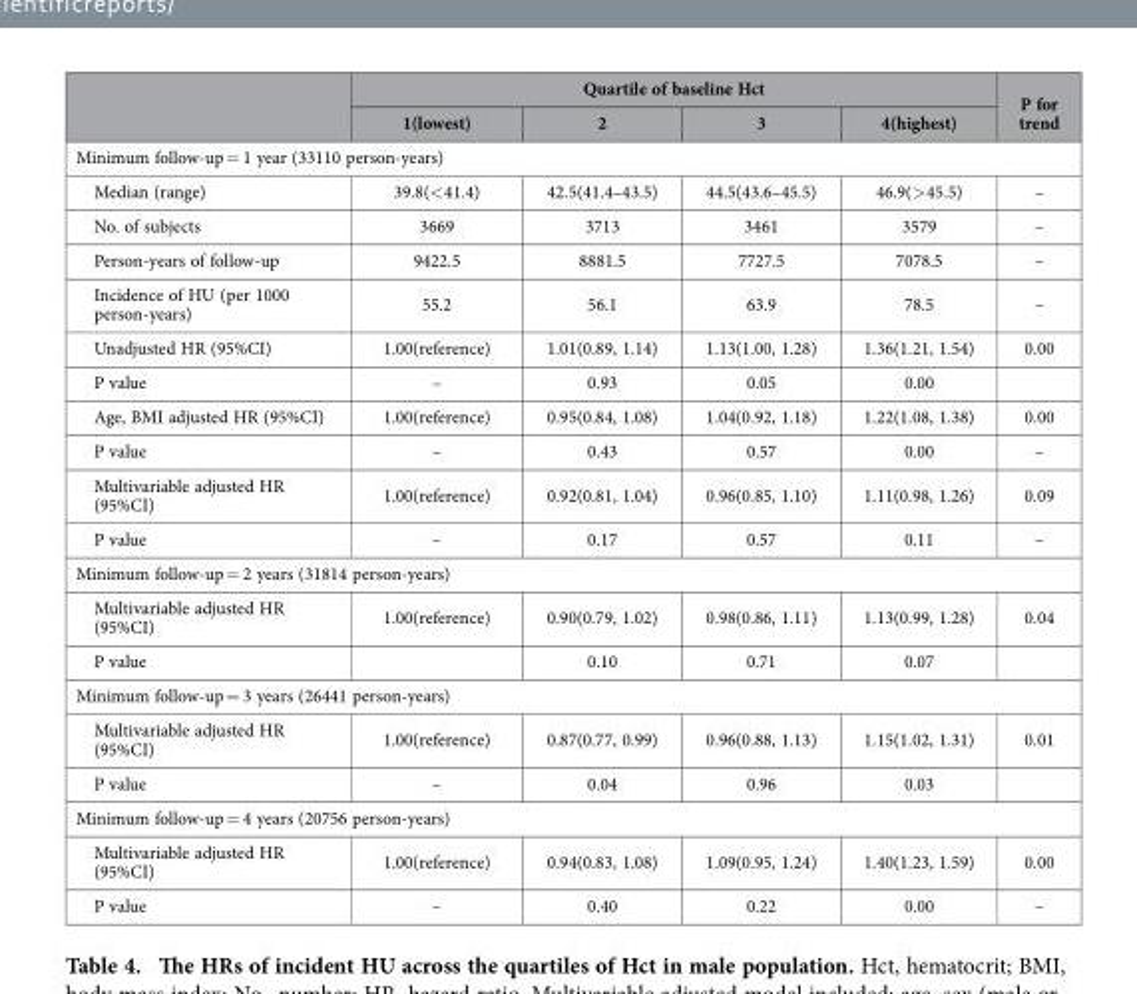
<table><thead><tr><td rowspan="2"></td><td colspan="4">Quartile of baseline Hct</td><td rowspan="2">P for trend</td></tr><tr><td>1(lowest)</td><td>2</td><td>3</td><td>4(highest)</td></tr></thead><tbody><tr><td colspan="6">Minimum follow-up = 1 year (33110 person-years)</td></tr><tr><td>Median (range)</td><td>39.8(&lt; 41.4)</td><td>42.5(41.4–43.5)</td><td>44.5(43.6–45.5)</td><td>46.9(&gt; 45.5)</td><td>–</td></tr><tr><td>No. of subjects</td><td>3669</td><td>3713</td><td>3461</td><td>3579</td><td>–</td></tr><tr><td>Person-years of follow-up</td><td>9422.5</td><td>8881.5</td><td>7727.5</td><td>7078.5</td><td>–</td></tr><tr><td>Incidence of HU (per 1000 person-years)</td><td>55.2</td><td>56.1</td><td>63.9</td><td>78.5</td><td>–</td></tr><tr><td>Unadjusted HR (95%CI)</td><td>1.00(reference)</td><td>1.01(0.89, 1.14)</td><td>1.13(1.00, 1.28)</td><td>1.36(1.21, 1.54)</td><td>0.00</td></tr><tr><td>P value</td><td>–</td><td>0.93</td><td>0.05</td><td>0.00</td><td></td></tr><tr><td>Age, BMI adjusted HR (95%CI)</td><td>1.00(reference)</td><td>0.95(0.84, 1.08)</td><td>1.04(0.92, 1.18)</td><td>1.22(1.08, 1.38)</td><td>0.00</td></tr><tr><td>P value</td><td>–</td><td>0.43</td><td>0.57</td><td>0.00</td><td>–</td></tr><tr><td>Multivariable adjusted HR (95%CI)</td><td>1.00(reference)</td><td>0.92(0.81, 1.04)</td><td>0.96(0.85, 1.10)</td><td>1.11(0.98, 1.26)</td><td>0.09</td></tr><tr><td>P value</td><td>–</td><td>0.17</td><td>0.57</td><td>0.11</td><td>–</td></tr><tr><td colspan="6">Minimum follow-up = 2 years (31814 person-years)</td></tr><tr><td>Multivariable adjusted HR (95%CI)</td><td>1.00(reference)</td><td>0.90(0.79, 1.02)</td><td>0.98(0.86, 1.11)</td><td>1.13(0.99, 1.28)</td><td>0.04</td></tr><tr><td>P value</td><td></td><td>0.10</td><td>0.71</td><td>0.07</td><td></td></tr><tr><td colspan="6">Minimum follow-up = 3 years (26441 person-years)</td></tr><tr><td>Multivariable adjusted HR (95%CI)</td><td>1.00(reference)</td><td>0.87(0.77, 0.99)</td><td>0.96(0.88, 1.13)</td><td>1.15(1.02, 1.31)</td><td>0.01</td></tr><tr><td>P value</td><td>–</td><td>0.04</td><td>0.96</td><td>0.03</td><td></td></tr><tr><td colspan="6">Minimum follow-up = 4 years (20756 person-years)</td></tr><tr><td>Multivariable adjusted HR (95%CI)</td><td>1.00(reference)</td><td>0.94(0.83, 1.08)</td><td>1.09(0.95, 1.24)</td><td>1.40(1.23, 1.59)</td><td>0.00</td></tr><tr><td>P value</td><td>–</td><td>0.40</td><td>0.22</td><td>0.00</td><td>–</td></tr></tbody></table>